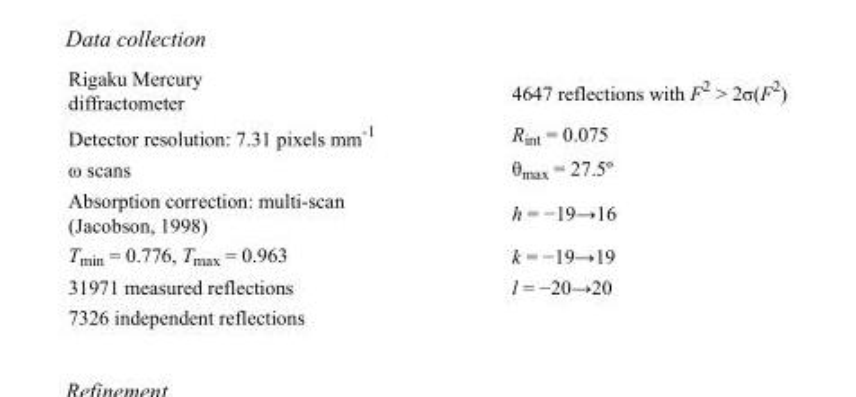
<table><tbody><tr><td>Rigaku Mercury diffractometer</td><td>4647 reflections with F<sup>2</sup> &gt; 2σ(F<sup>2</sup>)</td></tr><tr><td>Detector resolution: 7.31 pixels mm<sup>-1</sup></td><td>R<sub>int</sub> = 0.075</td></tr><tr><td>ω scans</td><td>θmax = 27.5º</td></tr><tr><td>Absorption correction: multi-scan (Jacobson, 1998)</td><td>h = −19→16</td></tr><tr><td>T<sub>min</sub> = 0.776, T<sub>max</sub> = 0.963</td><td>k = −19→19</td></tr><tr><td>31971 measured reflections</td><td>l = −20→20</td></tr><tr><td>7326 independent reflections</td><td></td></tr></tbody></table>